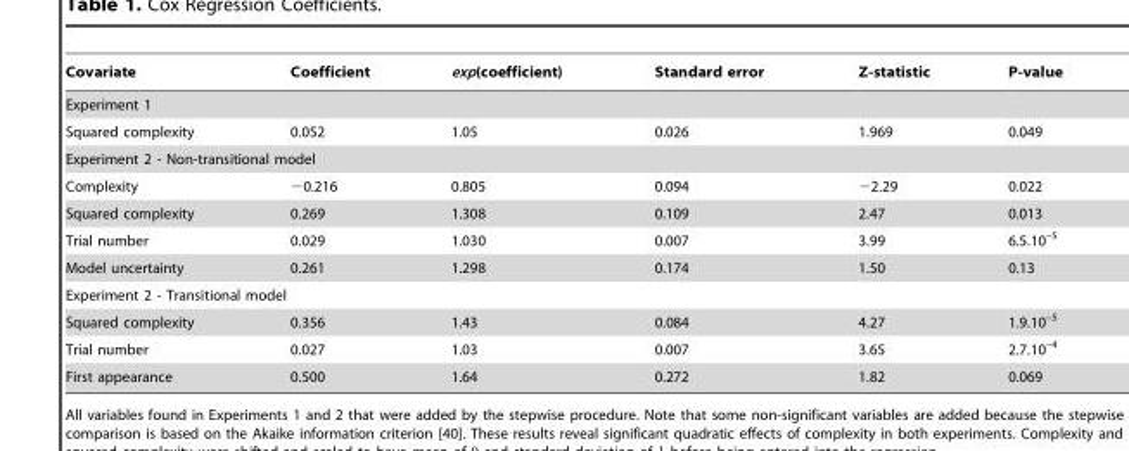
<table><thead><tr><td>Covariate</td><td>Coefficient</td><td>exp(coefficient)</td><td>Standard error</td><td>Z-statistic</td><td>P-value</td></tr></thead><tbody><tr><td colspan="6">Experiment 1</td></tr><tr><td>Squared complexity</td><td>0.052</td><td>1.05</td><td>0.026</td><td>1.969</td><td>0.049</td></tr><tr><td colspan="6">Experiment 2 - Non-transitional model</td></tr><tr><td>Complexity</td><td>−0.216</td><td>0.805</td><td>0.094</td><td>−2.29</td><td>0.022</td></tr><tr><td>Squared complexity</td><td>0.269</td><td>1.308</td><td>0.109</td><td>2.47</td><td>0.013</td></tr><tr><td>Trial number</td><td>0.029</td><td>1.030</td><td>0.007</td><td>3.99</td><td>6.5.10<sup>–5</sup></td></tr><tr><td>Model uncertainty</td><td>0.261</td><td>1.298</td><td>0.174</td><td>1.50</td><td>0.13</td></tr><tr><td colspan="6">Experiment 2 - Transitional model</td></tr><tr><td>Squared complexity</td><td>0.356</td><td>1.43</td><td>0.084</td><td>4.27</td><td>1.9.10<sup>–5</sup></td></tr><tr><td>Trial number</td><td>0.027</td><td>1.03</td><td>0.007</td><td>3.65</td><td>2.7.10<sup>–4</sup></td></tr><tr><td>First appearance</td><td>0.500</td><td>1.64</td><td>0.272</td><td>1.82</td><td>0.069</td></tr></tbody></table>